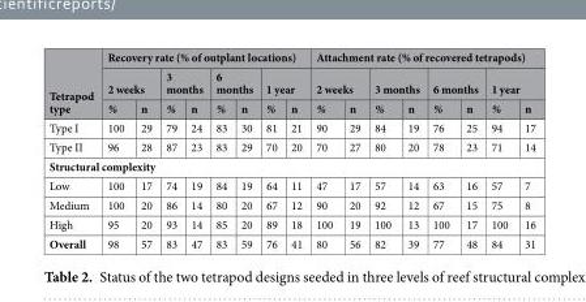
<table><thead><tr><td rowspan="3">Tetrapod type</td><td colspan="8">Recovery rate (% of outplant locations)</td><td colspan="8">Attachment rate (% of recovered tetrapods)</td></tr><tr><td colspan="2">2 weeks</td><td colspan="2">3 months</td><td colspan="2">6 months</td><td colspan="2">1 year</td><td colspan="2">2 weeks</td><td colspan="2">3 months</td><td colspan="2">6 months</td><td colspan="2">1 year</td></tr><tr><td>%</td><td>n</td><td>%</td><td>n</td><td>%</td><td>n</td><td>%</td><td>n</td><td>%</td><td>n</td><td>%</td><td>n</td><td>%</td><td>n</td><td>%</td><td>n</td></tr></thead><tbody><tr><td>Type I</td><td>100</td><td>29</td><td>79</td><td>24</td><td>83</td><td>30</td><td>81</td><td>21</td><td>90</td><td>29</td><td>84</td><td>19</td><td>76</td><td>25</td><td>94</td><td>17</td></tr><tr><td>Type II</td><td>96</td><td>28</td><td>87</td><td>23</td><td>83</td><td>29</td><td>70</td><td>20</td><td>70</td><td>27</td><td>80</td><td>20</td><td>78</td><td>23</td><td>71</td><td>14</td></tr><tr><td colspan="17">Structural complexity</td></tr><tr><td>Low</td><td>100</td><td>17</td><td>74</td><td>19</td><td>84</td><td>19</td><td>64</td><td>11</td><td>47</td><td>17</td><td>57</td><td>14</td><td>63</td><td>16</td><td>57</td><td>7</td></tr><tr><td>Medium</td><td>100</td><td>20</td><td>86</td><td>14</td><td>80</td><td>20</td><td>67</td><td>12</td><td>90</td><td>20</td><td>92</td><td>12</td><td>67</td><td>15</td><td>75</td><td>8</td></tr><tr><td>High</td><td>95</td><td>20</td><td>93</td><td>14</td><td>85</td><td>20</td><td>89</td><td>18</td><td>100</td><td>19</td><td>100</td><td>13</td><td>100</td><td>17</td><td>100</td><td>16</td></tr><tr><td>Overall</td><td>98</td><td>57</td><td>83</td><td>47</td><td>83</td><td>59</td><td>76</td><td>41</td><td>80</td><td>56</td><td>82</td><td>39</td><td>77</td><td>48</td><td>84</td><td>31</td></tr></tbody></table>